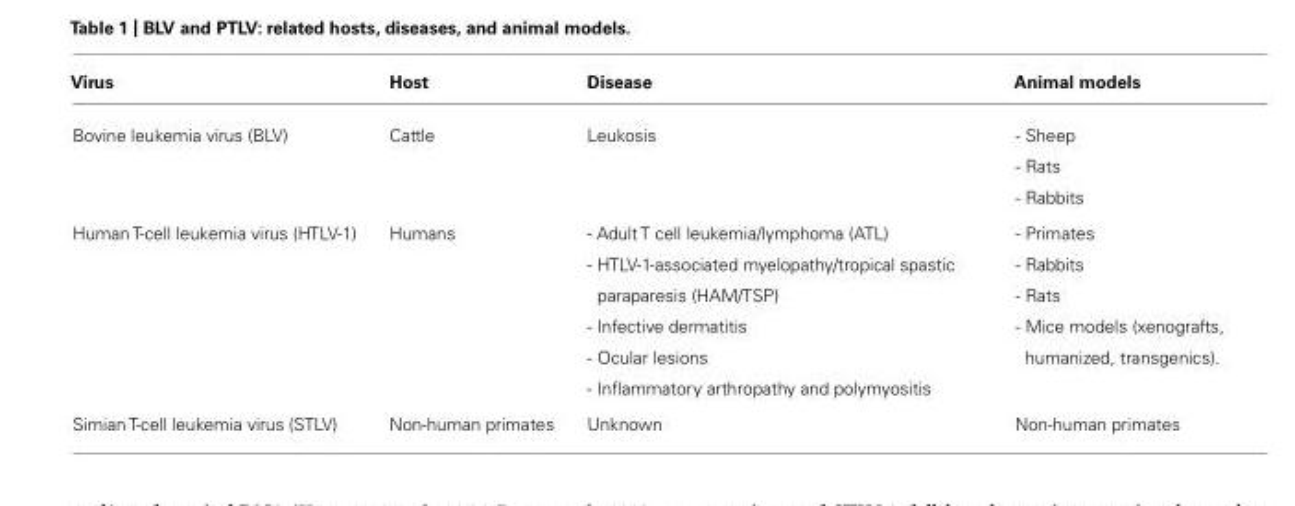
<table><thead><tr><td>Virus</td><td>Host</td><td>Disease</td><td>Animal models</td></tr></thead><tbody><tr><td>Bovine leukemia virus (BLV)</td><td>Cattle</td><td>Leukosis</td><td>- Sheep - Rats - Rabbits</td></tr><tr><td>Human T-cell leukemia virus (HTLV-1)</td><td>Humans</td><td>- Adult T cell leukemia/lymphoma (ATL) - HTLV-1-associated myelopathy/tropical spastic paraparesis (HAM/TSP) - Infective dermatitis - Ocular lesions - Inflammatory arthropathy and polymyositis</td><td>- Primates - Rabbits - Rats - Mice models (xenografts, humanized, transgenics).</td></tr><tr><td>Simian T-cell leukemia virus (STLV)</td><td>Non-human primates</td><td>Unknown</td><td>Non-human primates</td></tr></tbody></table>